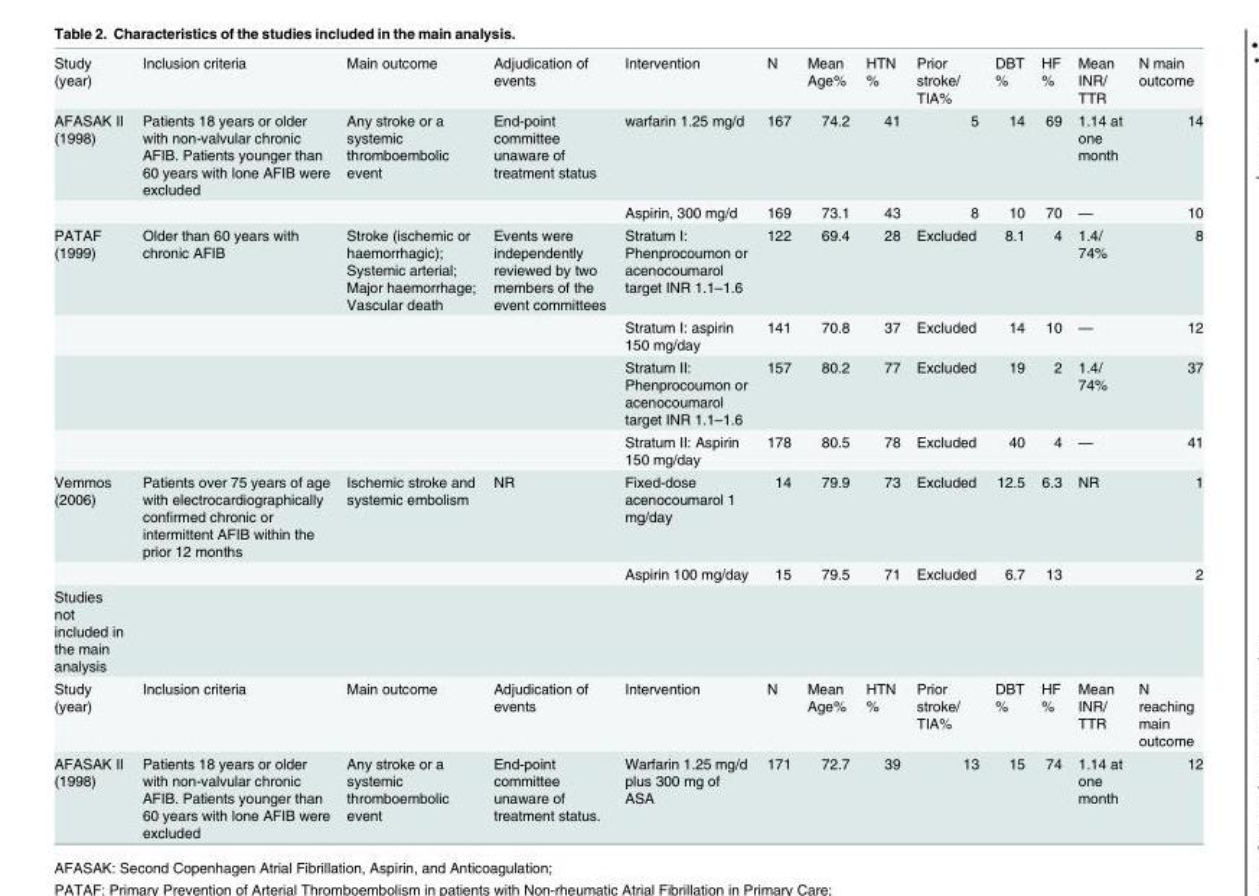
<table><tbody><tr><td>Study (year)</td><td>Inclusion criteria</td><td>Main outcome</td><td>Adjudication of events</td><td>Intervention</td><td>N</td><td>Mean Age%</td><td>HTN %</td><td>Prior stroke/ TIA%</td><td>DBT %</td><td>HF %</td><td>Mean INR/ TTR</td><td>N main outcome</td></tr><tr><td rowspan="2">AFASAK II (1998)</td><td>Patients 18 years or older with non-valvular chronic AFIB. Patients younger than 60 years with lone AFIB were excluded</td><td>Any stroke or a systemic thromboembolic event</td><td>End-point committee unaware of treatment status</td><td>warfarin 1.25 mg/d</td><td>167</td><td>74.2</td><td>41</td><td>5</td><td>14</td><td>69</td><td>1.14 at one month</td><td>14</td></tr><tr><td></td><td></td><td></td><td>Aspirin, 300 mg/d</td><td>169</td><td>73.1</td><td>43</td><td>8</td><td>10</td><td>70</td><td>—</td><td>10</td></tr><tr><td rowspan="4">PATAF (1999)</td><td>Older than 60 years with chronic AFIB</td><td>Stroke (ischemic or haemorrhagic); Systemic arterial; Major haemorrhage; Vascular death</td><td>Events were independently reviewed by two members of the event committees</td><td>Stratum I: Phenprocoumon or acenocoumarol target INR 1.1–1.6</td><td>122</td><td>69.4</td><td>28</td><td>Excluded</td><td>8.1</td><td>4</td><td>1.4/ 74%</td><td>8</td></tr><tr><td></td><td></td><td></td><td>Stratum I: aspirin 150 mg/day</td><td>141</td><td>70.8</td><td>37</td><td>Excluded</td><td>14</td><td>10</td><td>—</td><td>12</td></tr><tr><td></td><td></td><td></td><td>Stratum II: Phenprocoumon or acenocoumarol target INR 1.1–1.6</td><td>157</td><td>80.2</td><td>77</td><td>Excluded</td><td>19</td><td>2</td><td>1.4/ 74%</td><td>37</td></tr><tr><td></td><td></td><td></td><td>Stratum II: Aspirin 150 mg/day</td><td>178</td><td>80.5</td><td>78</td><td>Excluded</td><td>40</td><td>4</td><td>—</td><td>41</td></tr><tr><td rowspan="2">Vemmos (2006)</td><td>Patients over 75 years of age with electrocardiographically confirmed chronic or intermittent AFIB within the prior 12 months</td><td>Ischemic stroke and systemic embolism</td><td>NR</td><td>Fixed-dose acenocoumarol 1 mg/day</td><td>14</td><td>79.9</td><td>73</td><td>Excluded</td><td>12.5</td><td>6.3</td><td>NR</td><td>1</td></tr><tr><td></td><td></td><td></td><td>Aspirin 100 mg/day</td><td>15</td><td>79.5</td><td>71</td><td>Excluded</td><td>6.7</td><td>13</td><td></td><td>2</td></tr><tr><td colspan="13">Studies not included in the main analysis</td></tr><tr><td>Study (year)</td><td>Inclusion criteria</td><td>Main outcome</td><td>Adjudication of events</td><td>Intervention</td><td>N</td><td>Mean Age%</td><td>HTN %</td><td>Prior stroke/ TIA%</td><td>DBT %</td><td>HF %</td><td>Mean INR/ TTR</td><td>N reaching main outcome</td></tr><tr><td>AFASAK II (1998)</td><td>Patients 18 years or older with non-valvular chronic AFIB. Patients younger than 60 years with lone AFIB were excluded</td><td>Any stroke or a systemic thromboembolic event</td><td>End-point committee unaware of treatment status.</td><td>Warfarin 1.25 mg/d plus 300 mg of ASA</td><td>171</td><td>72.7</td><td>39</td><td>13</td><td>15</td><td>74</td><td>1.14 at one month</td><td>12</td></tr></tbody></table>